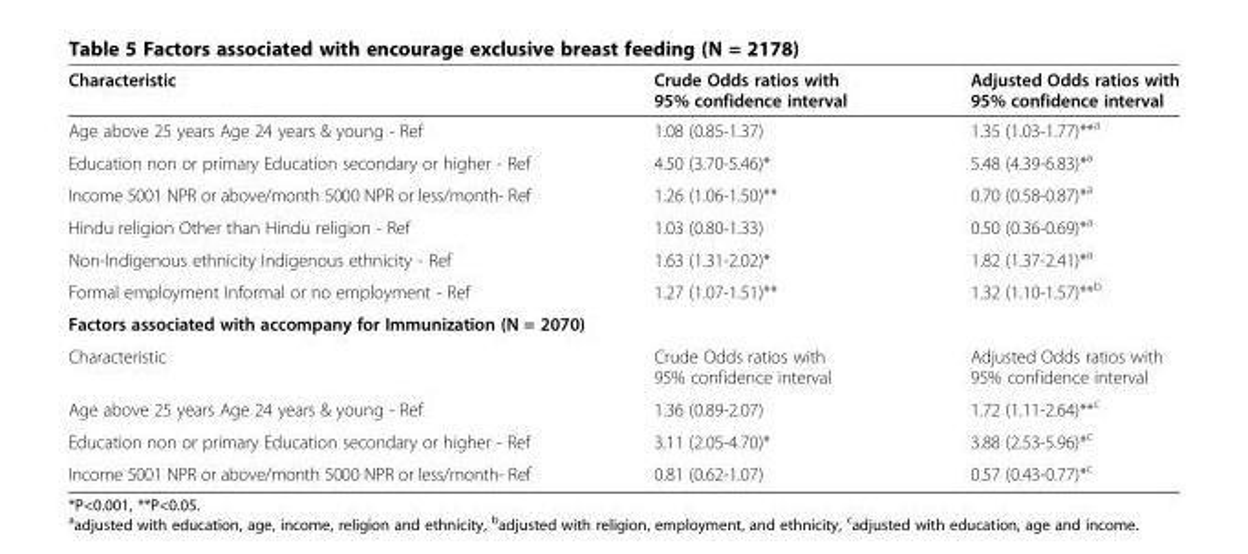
<table><thead><tr><td>Characteristic</td><td>Crude Odds ratios with 95% confidence interval</td><td>Adjusted Odds ratios with 95% confidence interval</td></tr></thead><tbody><tr><td>Age above 25 years Age 24 years &amp; young - Ref</td><td>1.08 (0.85-1.37)</td><td>1.35 (1.03-1.77)**<sup>a</sup></td></tr><tr><td>Education non or primary Education secondary or higher - Ref</td><td>4.50 (3.70-5.46)*</td><td>5.48 (4.39-6.83)*<sup>a</sup></td></tr><tr><td>Income 5001 NPR or above/month 5000 NPR or less/month- Ref</td><td>1.26 (1.06-1.50)**</td><td>0.70 (0.58-0.87)*<sup>a</sup></td></tr><tr><td>Hindu religion Other than Hindu religion - Ref</td><td>1.03 (0.80-1.33)</td><td>0.50 (0.36-0.69)*<sup>a</sup></td></tr><tr><td>Non-Indigenous ethnicity Indigenous ethnicity - Ref</td><td>1.63 (1.31-2.02)*</td><td>1.82 (1.37-2.41)*<sup>a</sup></td></tr><tr><td>Formal employment Informal or no employment - Ref</td><td>1.27 (1.07-1.51)**</td><td>1.32 (1.10-1.57)**<sup>b</sup></td></tr><tr><td colspan="3">Factors associated with accompany for Immunization (N = 2070)</td></tr><tr><td>Characteristic</td><td>Crude Odds ratios with 95% confidence interval</td><td>Adjusted Odds ratios with 95% confidence interval</td></tr><tr><td>Age above 25 years Age 24 years &amp; young - Ref</td><td>1.36 (0.89-2.07)</td><td>1.72 (1.11-2.64)**<sup>c</sup></td></tr><tr><td>Education non or primary Education secondary or higher - Ref</td><td>3.11 (2.05-4.70)*</td><td>3.88 (2.53-5.96)*<sup>c</sup></td></tr><tr><td>Income 5001 NPR or above/month 5000 NPR or less/month- Ref</td><td>0.81 (0.62-1.07)</td><td>0.57 (0.43-0.77)*<sup>c</sup></td></tr></tbody></table>